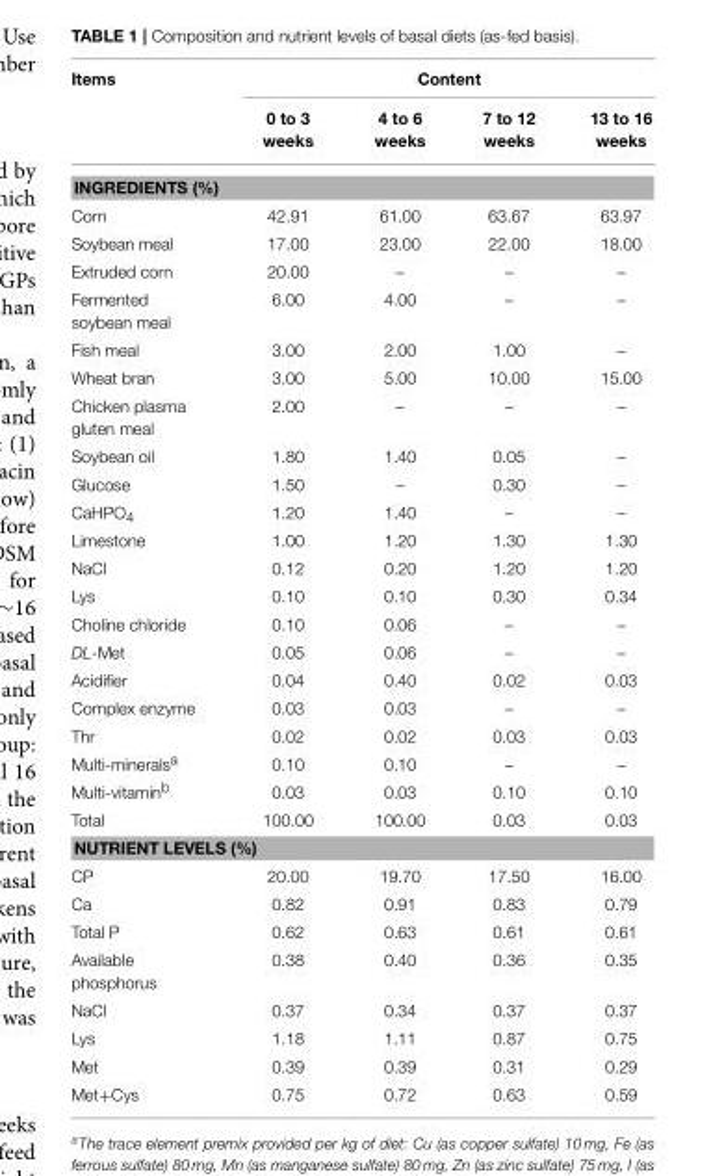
<table><thead><tr><td rowspan="2">Items</td><td colspan="4">Content</td></tr><tr><td>0 to 3 weeks</td><td>4 to 6 weeks</td><td>7 to 12 weeks</td><td>13 to 16 weeks</td></tr></thead><tbody><tr><td colspan="5">INGREDIENTS (%)</td></tr><tr><td>Corn</td><td>42.91</td><td>61.00</td><td>63.67</td><td>63.97</td></tr><tr><td>Soybean meal</td><td>17.00</td><td>23.00</td><td>22.00</td><td>18.00</td></tr><tr><td>Extruded corn</td><td>20.00</td><td>–</td><td>–</td><td>–</td></tr><tr><td>Fermented soybean meal</td><td>6.00</td><td>4.00</td><td>–</td><td>–</td></tr><tr><td>Fish meal</td><td>3.00</td><td>2.00</td><td>1.00</td><td>–</td></tr><tr><td>Wheat bran</td><td>3.00</td><td>5.00</td><td>10.00</td><td>15.00</td></tr><tr><td>Chicken plasma gluten meal</td><td>2.00</td><td>–</td><td>–</td><td>–</td></tr><tr><td>Soybean oil</td><td>1.80</td><td>1.40</td><td>0.05</td><td>–</td></tr><tr><td>Glucose</td><td>1.50</td><td>–</td><td>0.30</td><td>–</td></tr><tr><td>CaHPO<sub>4</sub></td><td>1.20</td><td>1.40</td><td>–</td><td>–</td></tr><tr><td>Limestone</td><td>1.00</td><td>1.20</td><td>1.30</td><td>1.30</td></tr><tr><td>NaCl</td><td>0.12</td><td>0.20</td><td>1.20</td><td>1.20</td></tr><tr><td>Lys</td><td>0.10</td><td>0.10</td><td>0.30</td><td>0.34</td></tr><tr><td>Choline chloride</td><td>0.10</td><td>0.06</td><td>–</td><td>–</td></tr><tr><td>DL-Met</td><td>0.05</td><td>0.06</td><td>–</td><td>–</td></tr><tr><td>Acidifier</td><td>0.04</td><td>0.40</td><td>0.02</td><td>0.03</td></tr><tr><td>Complex enzyme</td><td>0.03</td><td>0.03</td><td>–</td><td>–</td></tr><tr><td>Thr</td><td>0.02</td><td>0.02</td><td>0.03</td><td>0.03</td></tr><tr><td>Multi-minerals<sup>a</sup></td><td>0.10</td><td>0.10</td><td>–</td><td>–</td></tr><tr><td>Multi-vitamin<sup>b</sup></td><td>0.03</td><td>0.03</td><td>0.10</td><td>0.10</td></tr><tr><td>Total</td><td>100.00</td><td>100.00</td><td>0.03</td><td>0.03</td></tr><tr><td colspan="5">NUTRIENT LEVELS (%)</td></tr><tr><td>CP</td><td>20.00</td><td>19.70</td><td>17.50</td><td>16.00</td></tr><tr><td>Ca</td><td>0.82</td><td>0.91</td><td>0.83</td><td>0.79</td></tr><tr><td>Total P</td><td>0.62</td><td>0.63</td><td>0.61</td><td>0.61</td></tr><tr><td>Available phosphorus</td><td>0.38</td><td>0.40</td><td>0.36</td><td>0.35</td></tr><tr><td>NaCl</td><td>0.37</td><td>0.34</td><td>0.37</td><td>0.37</td></tr><tr><td>Lys</td><td>1.18</td><td>1.11</td><td>0.87</td><td>0.75</td></tr><tr><td>Met</td><td>0.39</td><td>0.39</td><td>0.31</td><td>0.29</td></tr><tr><td>Met+Cys</td><td>0.75</td><td>0.72</td><td>0.63</td><td>0.59</td></tr></tbody></table>